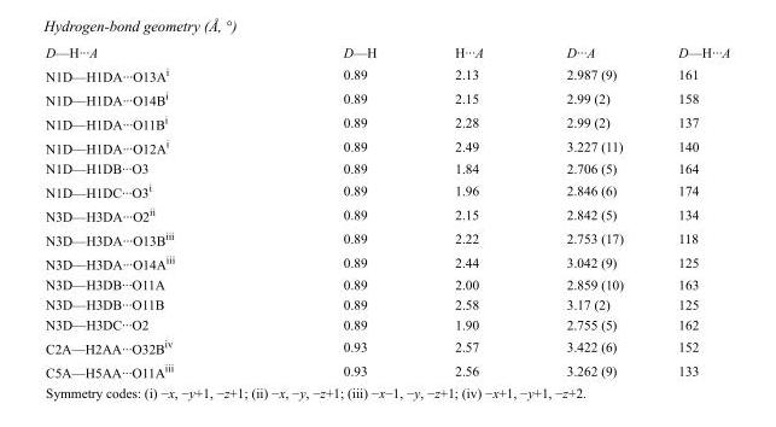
<table><tbody><tr><td>D—H···A</td><td>D—H</td><td>H···A</td><td>D···A</td><td>D—H···A</td></tr><tr><td>N1D—H1DA···O13A<sup>i</sup></td><td>0.89</td><td>2.13</td><td>2.987 (9)</td><td>161</td></tr><tr><td>N1D—H1DA···O14B<sup>i</sup></td><td>0.89</td><td>2.15</td><td>2.99 (2)</td><td>158</td></tr><tr><td>N1D—H1DA···O11B<sup>i</sup></td><td>0.89</td><td>2.28</td><td>2.99 (2)</td><td>137</td></tr><tr><td>N1D—H1DA···O12A<sup>i</sup></td><td>0.89</td><td>2.49</td><td>3.227 (11)</td><td>140</td></tr><tr><td>N1D—H1DB···O3</td><td>0.89</td><td>1.84</td><td>2.706 (5)</td><td>164</td></tr><tr><td>N1D—H1DC···O3<sup>i</sup></td><td>0.89</td><td>1.96</td><td>2.846 (6)</td><td>174</td></tr><tr><td>N3D—H3DA···O2<sup>ii</sup></td><td>0.89</td><td>2.15</td><td>2.842 (5)</td><td>134</td></tr><tr><td>N3D—H3DA···O13B<sup>iii</sup></td><td>0.89</td><td>2.22</td><td>2.753 (17)</td><td>118</td></tr><tr><td>N3D—H3DA···O14A<sup>iii</sup></td><td>0.89</td><td>2.44</td><td>3.042 (9)</td><td>125</td></tr><tr><td>N3D—H3DB···O11A</td><td>0.89</td><td>2.00</td><td>2.859 (10)</td><td>163</td></tr><tr><td>N3D—H3DB···O11B</td><td>0.89</td><td>2.58</td><td>3.17 (2)</td><td>125</td></tr><tr><td>N3D—H3DC···O2</td><td>0.89</td><td>1.90</td><td>2.755 (5)</td><td>162</td></tr><tr><td>C2A—H2AA···O32B<sup>iv</sup></td><td>0.93</td><td>2.57</td><td>3.422 (6)</td><td>152</td></tr><tr><td>C5A—H5AA···O11A<sup>iii</sup></td><td>0.93</td><td>2.56</td><td>3.262 (9)</td><td>133</td></tr></tbody></table>